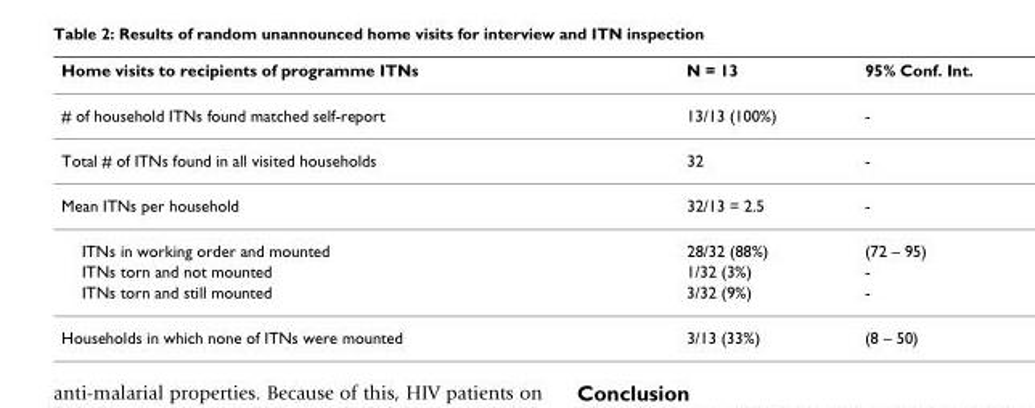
<table><thead><tr><td>Home visits to recipients of programme ITNs</td><td>N = 13</td><td>95% Conf. Int.</td></tr></thead><tbody><tr><td># of household ITNs found matched self-report</td><td>13/13 (100%)</td><td>-</td></tr><tr><td>Total # of ITNs found in all visited households</td><td>32</td><td>-</td></tr><tr><td>Mean ITNs per household</td><td>32/13 = 2.5</td><td>-</td></tr><tr><td>ITNs in working order and mounted</td><td>28/32 (88%)</td><td>(72 – 95)</td></tr><tr><td>ITNs torn and not mounted</td><td>1/32 (3%)</td><td>-</td></tr><tr><td>ITNs torn and still mounted</td><td>3/32 (9%)</td><td>-</td></tr><tr><td>Households in which none of ITNs were mounted</td><td>3/13 (33%)</td><td>(8 – 50)</td></tr></tbody></table>